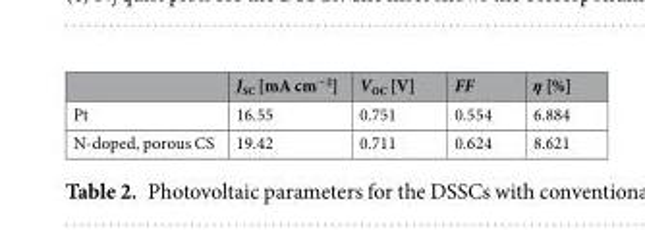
<table><thead><tr><td></td><td>J<sub>SC</sub> [mA cm<sup>−2</sup>]</td><td>V<sub>OC</sub> [V]</td><td>FF</td><td>ƞ [%]</td></tr></thead><tbody><tr><td>Pt</td><td>16.55</td><td>0.751</td><td>0.554</td><td>6.884</td></tr><tr><td>N-doped, porous CS</td><td>19.42</td><td>0.711</td><td>0.624</td><td>8.621</td></tr></tbody></table>